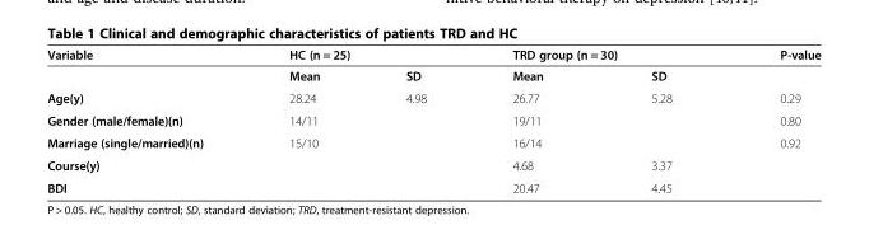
<table><thead><tr><td rowspan="2">Variable</td><td colspan="2">HC (n = 25)</td><td colspan="2">TRD group (n = 30)</td><td rowspan="2">P-value</td></tr><tr><td>Mean</td><td>SD</td><td>Mean</td><td>SD</td></tr></thead><tbody><tr><td>Age(y)</td><td>28.24</td><td>4.98</td><td>26.77</td><td>5.28</td><td>0.29</td></tr><tr><td>Gender (male/female)(n)</td><td>14/11</td><td></td><td>19/11</td><td></td><td>0.80</td></tr><tr><td>Marriage (single/married)(n)</td><td>15/10</td><td></td><td>16/14</td><td></td><td>0.92</td></tr><tr><td>Course(y)</td><td></td><td></td><td>4.68</td><td>3.37</td><td></td></tr><tr><td>BDI</td><td></td><td></td><td>20.47</td><td>4.45</td><td></td></tr></tbody></table>